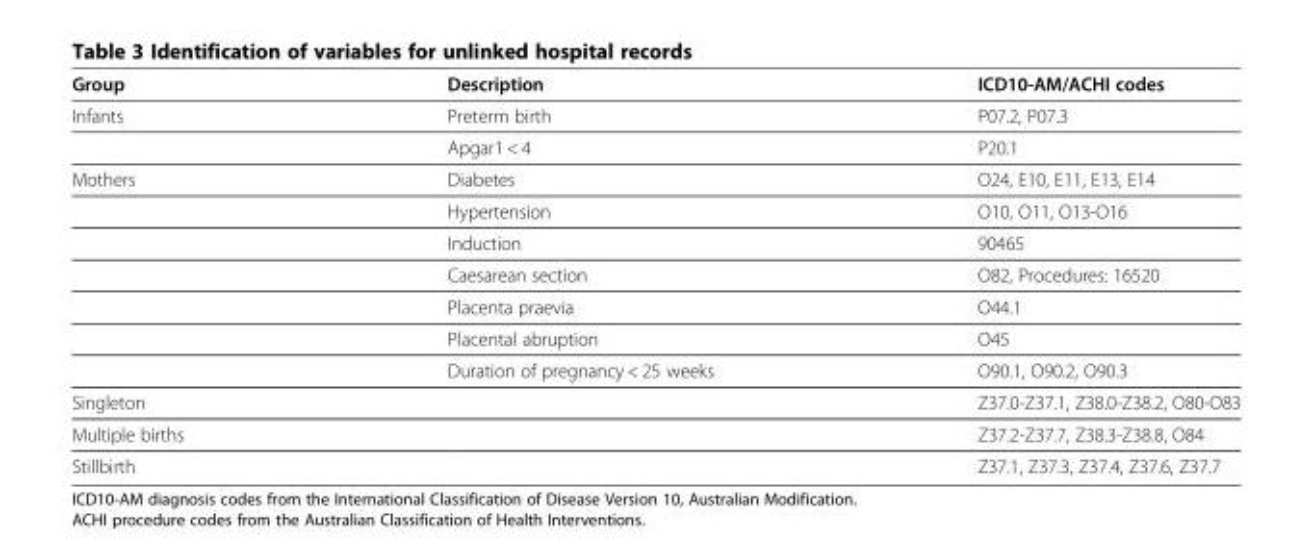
<table><thead><tr><td>Group</td><td>Description</td><td>ICD10-AM/ACHI codes</td></tr></thead><tbody><tr><td rowspan="2">Infants</td><td>Preterm birth</td><td>P07.2, P07.3</td></tr><tr><td>Apgar1 &lt; 4</td><td>P20.1</td></tr><tr><td rowspan="7">Mothers</td><td>Diabetes</td><td>O24, E10, E11, E13, E14</td></tr><tr><td>Hypertension</td><td>O10, O11, O13-O16</td></tr><tr><td>Induction</td><td>90465</td></tr><tr><td>Caesarean section</td><td>O82, Procedures: 16520</td></tr><tr><td>Placenta praevia</td><td>O44.1</td></tr><tr><td>Placental abruption</td><td>O45</td></tr><tr><td>Duration of pregnancy &lt; 25 weeks</td><td>O90.1, O90.2, O90.3</td></tr><tr><td>Singleton</td><td></td><td>Z37.0-Z37.1, Z38.0-Z38.2, O80-O83</td></tr><tr><td>Multiple births</td><td></td><td>Z37.2-Z37.7, Z38.3-Z38.8, O84</td></tr><tr><td>Stillbirth</td><td></td><td>Z37.1, Z37.3, Z37.4, Z37.6, Z37.7</td></tr></tbody></table>